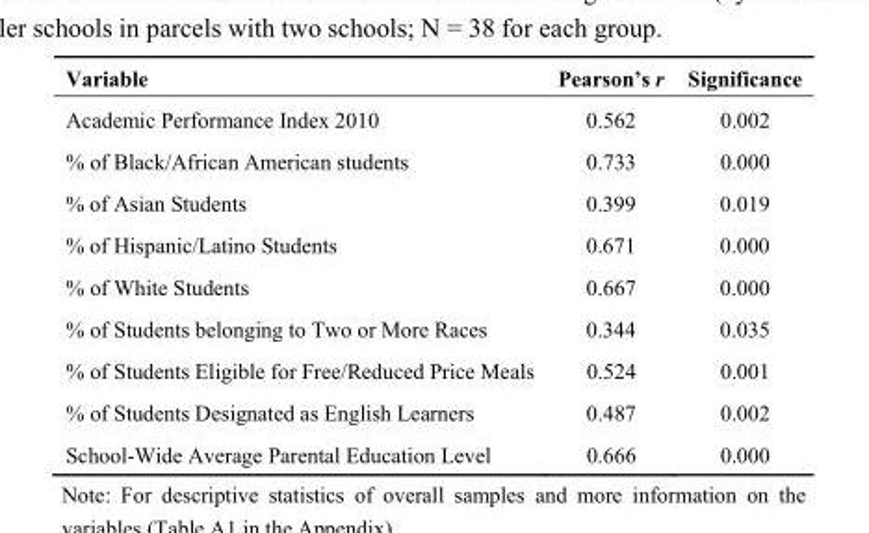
<table><thead><tr><td>Variable</td><td>Pearson’s r</td><td>Significance</td></tr></thead><tbody><tr><td>Academic Performance Index 2010</td><td>0.562</td><td>0.002</td></tr><tr><td>% of Black/African American students</td><td>0.733</td><td>0.000</td></tr><tr><td>% of Asian Students</td><td>0.399</td><td>0.019</td></tr><tr><td>% of Hispanic/Latino Students</td><td>0.671</td><td>0.000</td></tr><tr><td>% of White Students</td><td>0.667</td><td>0.000</td></tr><tr><td>% of Students belonging to Two or More Races</td><td>0.344</td><td>0.035</td></tr><tr><td>% of Students Eligible for Free/Reduced Price Meals</td><td>0.524</td><td>0.001</td></tr><tr><td>% of Students Designated as English Learners</td><td>0.487</td><td>0.002</td></tr><tr><td>School-Wide Average Parental Education Level</td><td>0.666</td><td>0.000</td></tr></tbody></table>